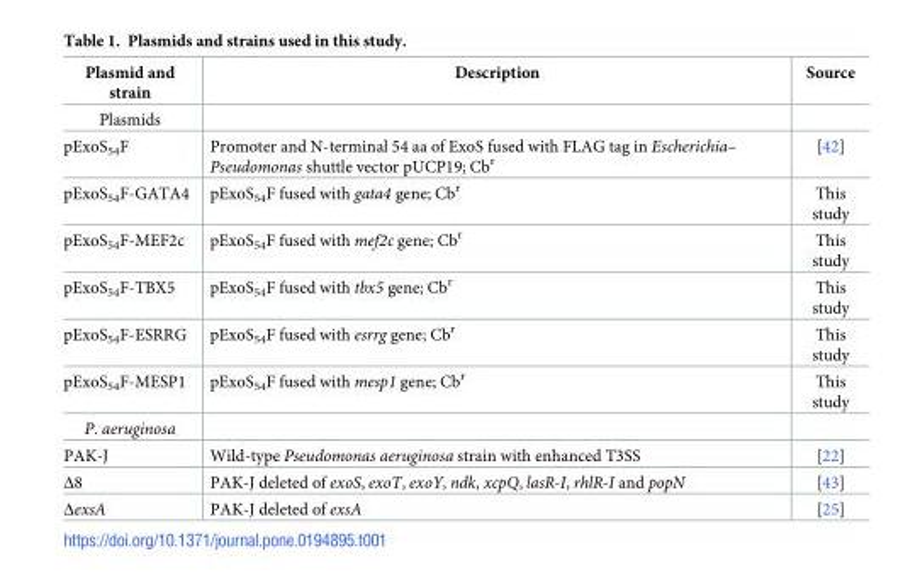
<table><thead><tr><td>Plasmid and strain</td><td>Description</td><td>Source</td></tr></thead><tbody><tr><td colspan="3">Plasmids</td></tr><tr><td>pExoS<sub>54</sub>F</td><td>Promoter and N-terminal 54 aa of ExoS fused with FLAG tag in Escherichia– Pseudomonas shuttle vector pUCP19; Cb<sup>r</sup></td><td>[42]</td></tr><tr><td>pExoS<sub>54</sub>F-GATA4</td><td>pExoS<sub>54</sub>F fused with gata4 gene; Cb<sup>r</sup></td><td>This study</td></tr><tr><td>pExoS<sub>54</sub>F-MEF2c</td><td>pExoS<sub>54</sub>F fused with mef2c gene; Cb<sup>r</sup></td><td>This study</td></tr><tr><td>pExoS<sub>54</sub>F-TBX5</td><td>pExoS<sub>54</sub>F fused with tbx5 gene; Cb<sup>r</sup></td><td>This study</td></tr><tr><td>pExoS<sub>54</sub>F-ESRRG</td><td>pExoS<sub>54</sub>F fused with esrrg gene; Cb<sup>r</sup></td><td>This study</td></tr><tr><td>pExoS<sub>54</sub>F-MESP1</td><td>pExoS<sub>54</sub>F fused with mesp1 gene; Cb<sup>r</sup></td><td>This study</td></tr><tr><td colspan="3">P. aeruginosa</td></tr><tr><td>PAK-J</td><td>Wild-type Pseudomonas aeruginosa strain with enhanced T3SS</td><td>[22]</td></tr><tr><td>Δ8</td><td>PAK-J deleted of exoS, exoT, exoY, ndk, xcpQ, lasR-I, rhlR-I and popN</td><td>[43]</td></tr><tr><td>ΔexsA</td><td>PAK-J deleted of exsA</td><td>[25]</td></tr></tbody></table>